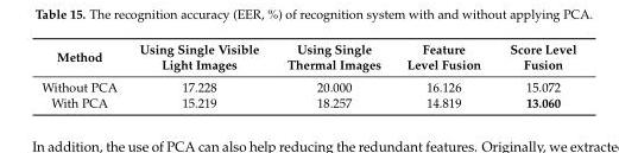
<table><thead><tr><td>Method</td><td>Using Single Visible Light Images</td><td>Using Single Thermal Images</td><td>Feature Level Fusion</td><td>Score Level Fusion</td></tr></thead><tbody><tr><td>Without PCA</td><td>17.228</td><td>20.000</td><td>16.126</td><td>15.072</td></tr><tr><td>With PCA</td><td>15.219</td><td>18.257</td><td>14.819</td><td>13.060</td></tr></tbody></table>